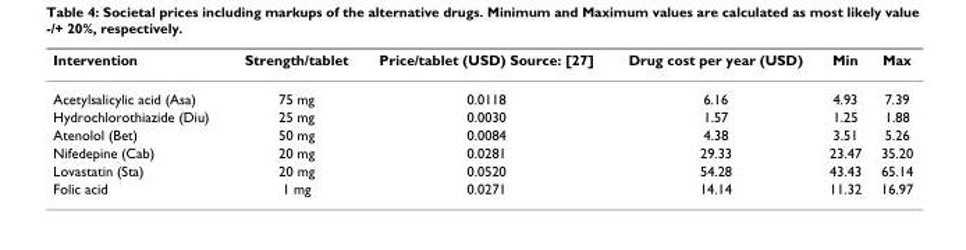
<table><thead><tr><td>Intervention</td><td>Strength/tablet</td><td>Price/tablet (USD) Source: [27]</td><td>Drug cost per year (USD)</td><td>Min</td><td>Max</td></tr></thead><tbody><tr><td>Acetylsalicylic acid (Asa)</td><td>75 mg</td><td>0.0118</td><td>6.16</td><td>4.93</td><td>7.39</td></tr><tr><td>Hydrochlorothiazide (Diu)</td><td>25 mg</td><td>0.0030</td><td>1.57</td><td>1.25</td><td>1.88</td></tr><tr><td>Atenolol (Bet)</td><td>50 mg</td><td>0.0084</td><td>4.38</td><td>3.51</td><td>5.26</td></tr><tr><td>Nifedepine (Cab)</td><td>20 mg</td><td>0.0281</td><td>29.33</td><td>23.47</td><td>35.20</td></tr><tr><td>Lovastatin (Sta)</td><td>20 mg</td><td>0.0520</td><td>54.28</td><td>43.43</td><td>65.14</td></tr><tr><td>Folic acid</td><td>1 mg</td><td>0.0271</td><td>14.14</td><td>11.32</td><td>16.97</td></tr></tbody></table>